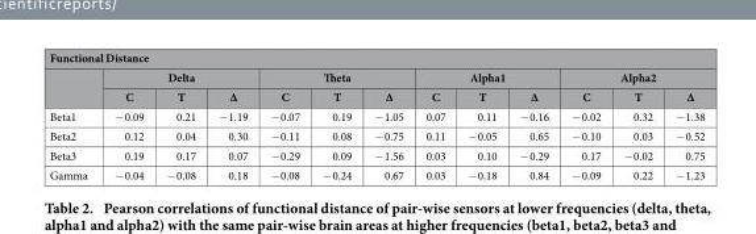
<table><thead><tr><td colspan="13">Functional Distance</td></tr><tr><td rowspan="2"></td><td colspan="3">Delta</td><td colspan="3">Theta</td><td colspan="3">Alpha1</td><td colspan="3">Alpha2</td></tr><tr><td>C</td><td>T</td><td>∆</td><td>C</td><td>T</td><td>∆</td><td>C</td><td>T</td><td>∆</td><td>C</td><td>T</td><td>∆</td></tr></thead><tbody><tr><td>Beta1</td><td>− 0.09</td><td>0.21</td><td>− 1.19</td><td>− 0.07</td><td>0.19</td><td>− 1.05</td><td>0.07</td><td>0.11</td><td>− 0.16</td><td>− 0.02</td><td>0.32</td><td>− 1.38</td></tr><tr><td>Beta2</td><td>0.12</td><td>0.04</td><td>0.30</td><td>− 0.11</td><td>0.08</td><td>− 0.75</td><td>0.11</td><td>− 0.05</td><td>0.65</td><td>− 0.10</td><td>0.03</td><td>− 0.52</td></tr><tr><td>Beta3</td><td>0.19</td><td>0.17</td><td>0.07</td><td>− 0.29</td><td>0.09</td><td>− 1.56</td><td>0.03</td><td>0.10</td><td>− 0.29</td><td>0.17</td><td>− 0.02</td><td>0.75</td></tr><tr><td>Gamma</td><td>− 0.04</td><td>− 0.08</td><td>0.18</td><td>− 0.08</td><td>− 0.24</td><td>0.67</td><td>0.03</td><td>− 0.18</td><td>0.84</td><td>− 0.09</td><td>0.22</td><td>− 1.23</td></tr></tbody></table>